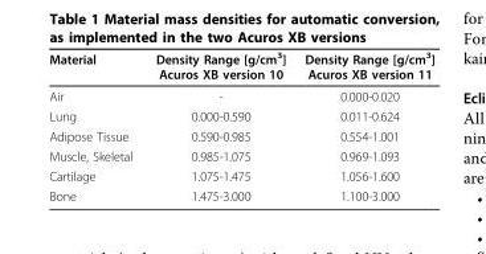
<table><thead><tr><td>Material</td><td>Density Range [g/cm<sup>3</sup>] Acuros XB version 10</td><td>Density Range [g/cm<sup>3</sup>] Acuros XB version 11</td></tr></thead><tbody><tr><td>Air</td><td>-</td><td>0.000-0.020</td></tr><tr><td>Lung</td><td>0.000-0.590</td><td>0.011-0.624</td></tr><tr><td>Adipose Tissue</td><td>0.590-0.985</td><td>0.554-1.001</td></tr><tr><td>Muscle, Skeletal</td><td>0.985-1.075</td><td>0.969-1.093</td></tr><tr><td>Cartilage</td><td>1.075-1.475</td><td>1.056-1.600</td></tr><tr><td>Bone</td><td>1.475-3.000</td><td>1.100-3.000</td></tr></tbody></table>